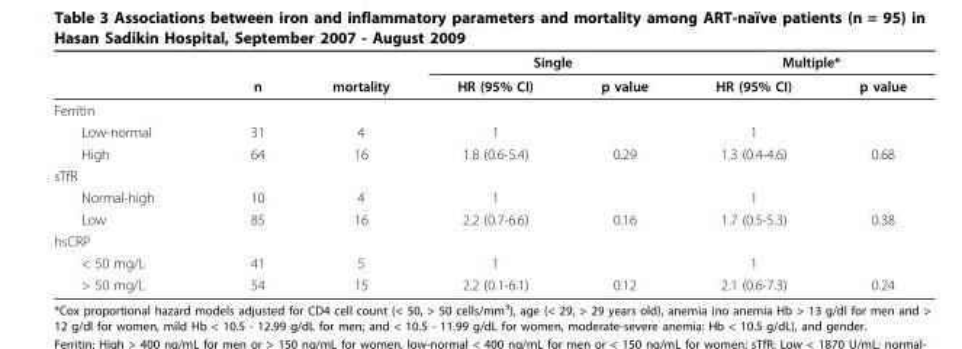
<table><thead><tr><td rowspan="2"></td><td rowspan="2">n</td><td rowspan="2">mortality</td><td colspan="2">Single</td><td colspan="2">Multiple*</td></tr><tr><td>HR (95% CI)</td><td>p value</td><td>HR (95% CI)</td><td>p value</td></tr></thead><tbody><tr><td colspan="7">Ferritin</td></tr><tr><td>Low-normal</td><td>31</td><td>4</td><td>1</td><td></td><td>1</td><td></td></tr><tr><td>High</td><td>64</td><td>16</td><td>1.8 (0.6-5.4)</td><td>0.29</td><td>1.3 (0.4-4.6)</td><td>0.68</td></tr><tr><td colspan="7">sTfR</td></tr><tr><td>Normal-high</td><td>10</td><td>4</td><td>1</td><td></td><td>1</td><td></td></tr><tr><td>Low</td><td>85</td><td>16</td><td>2.2 (0.7-6.6)</td><td>0.16</td><td>1.7 (0.5-5.3)</td><td>0.38</td></tr><tr><td colspan="7">hsCRP</td></tr><tr><td>&lt; 50 mg/L</td><td>41</td><td>5</td><td>1</td><td></td><td>1</td><td></td></tr><tr><td>&gt; 50 mg/L</td><td>54</td><td>15</td><td>2.2 (0.1-6.1)</td><td>0.12</td><td>2.1 (0.6-7.3)</td><td>0.24</td></tr></tbody></table>